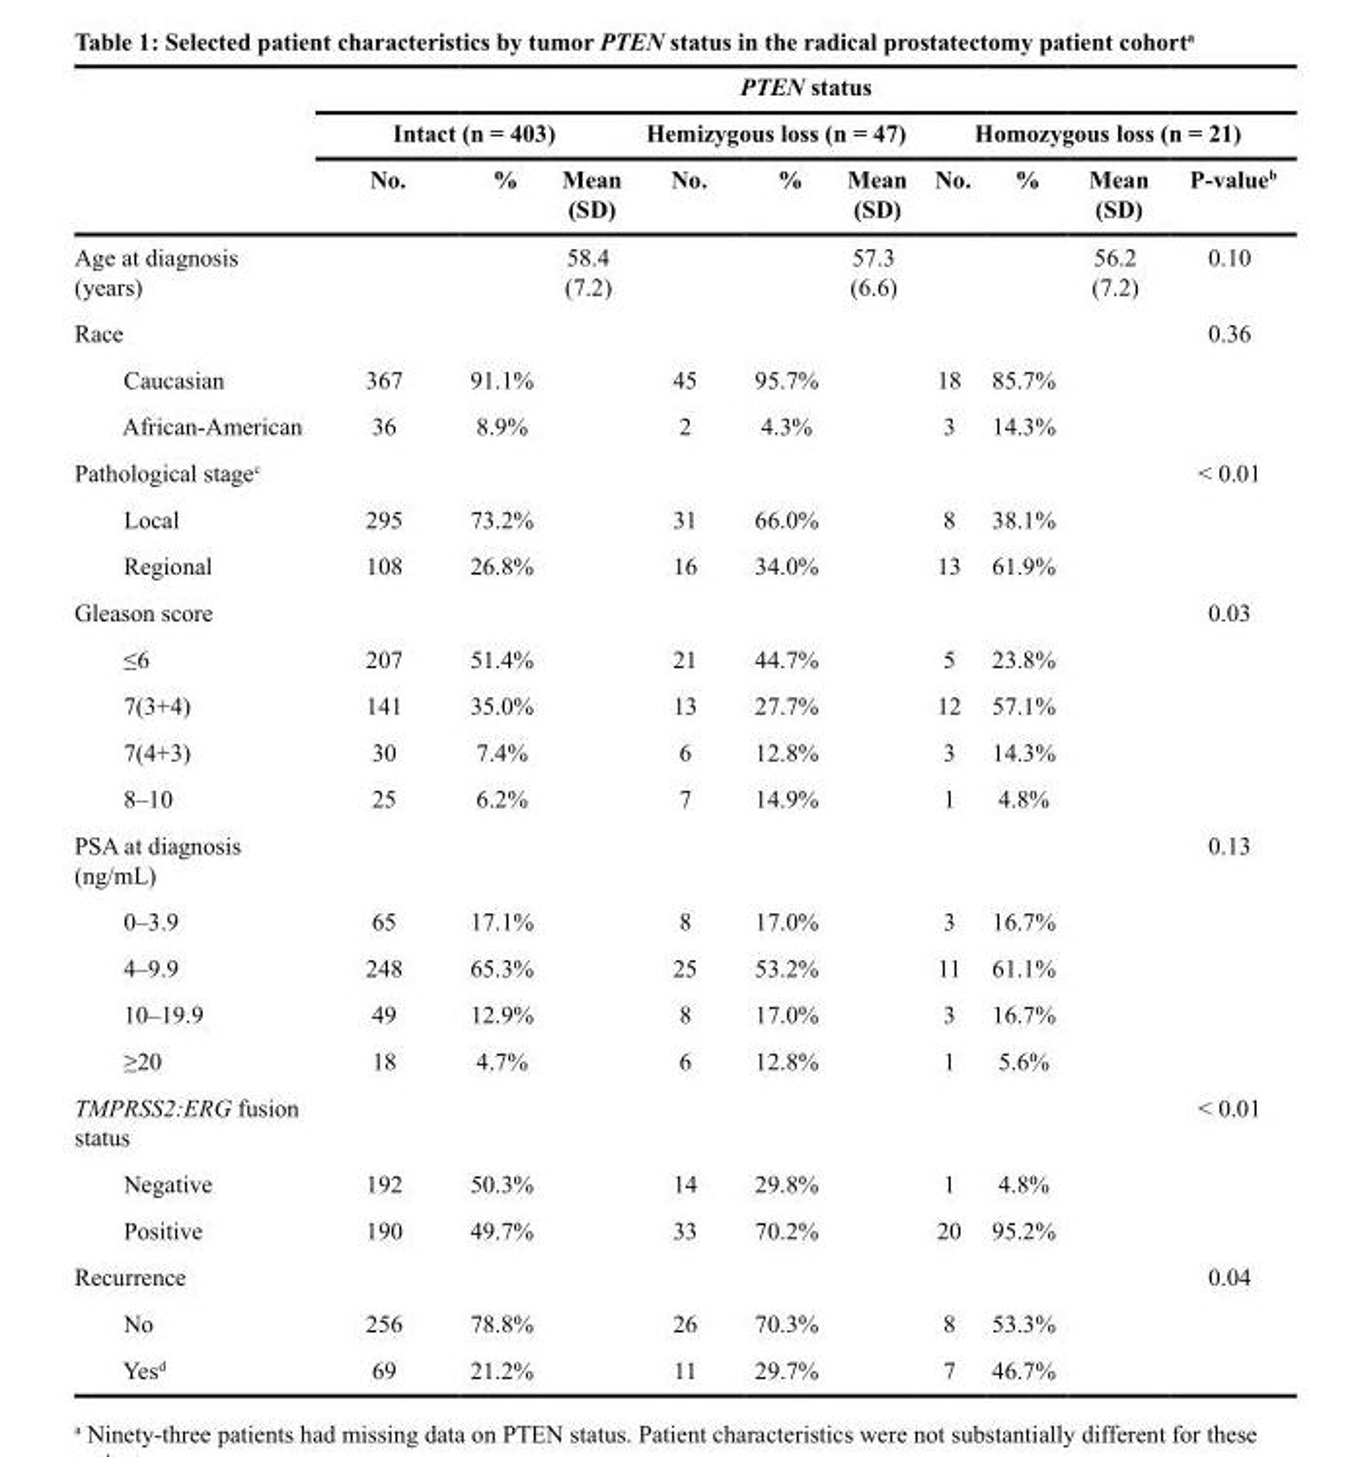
<table><thead><tr><td rowspan="3"></td><td colspan="10">PTEN status</td></tr><tr><td colspan="3">Intact (n = 403)</td><td colspan="3">Hemizygous loss (n = 47)</td><td colspan="4">Homozygous loss (n = 21)</td></tr><tr><td>No.</td><td>%</td><td>Mean (SD)</td><td>No.</td><td>%</td><td>Mean (SD)</td><td>No.</td><td>%</td><td>Mean (SD)</td><td>P-value<sup>b</sup></td></tr></thead><tbody><tr><td>Age at diagnosis (years)</td><td></td><td></td><td>58.4 (7.2)</td><td></td><td></td><td>57.3 (6.6)</td><td></td><td></td><td>56.2 (7.2)</td><td>0.10</td></tr><tr><td>Race</td><td></td><td></td><td></td><td></td><td></td><td></td><td></td><td></td><td></td><td>0.36</td></tr><tr><td>Caucasian</td><td>367</td><td>91.1%</td><td></td><td>45</td><td>95.7%</td><td></td><td>18</td><td>85.7%</td><td></td><td></td></tr><tr><td>African-American</td><td>36</td><td>8.9%</td><td></td><td>2</td><td>4.3%</td><td></td><td>3</td><td>14.3%</td><td></td><td></td></tr><tr><td>Pathological stage<sup>c</sup></td><td></td><td></td><td></td><td></td><td></td><td></td><td></td><td></td><td></td><td>&lt; 0.01</td></tr><tr><td>Local</td><td>295</td><td>73.2%</td><td></td><td>31</td><td>66.0%</td><td></td><td>8</td><td>38.1%</td><td></td><td></td></tr><tr><td>Regional</td><td>108</td><td>26.8%</td><td></td><td>16</td><td>34.0%</td><td></td><td>13</td><td>61.9%</td><td></td><td></td></tr><tr><td>Gleason score</td><td></td><td></td><td></td><td></td><td></td><td></td><td></td><td></td><td></td><td>0.03</td></tr><tr><td>≤6</td><td>207</td><td>51.4%</td><td></td><td>21</td><td>44.7%</td><td></td><td>5</td><td>23.8%</td><td></td><td></td></tr><tr><td>7(3+4)</td><td>141</td><td>35.0%</td><td></td><td>13</td><td>27.7%</td><td></td><td>12</td><td>57.1%</td><td></td><td></td></tr><tr><td>7(4+3)</td><td>30</td><td>7.4%</td><td></td><td>6</td><td>12.8%</td><td></td><td>3</td><td>14.3%</td><td></td><td></td></tr><tr><td>8–10</td><td>25</td><td>6.2%</td><td></td><td>7</td><td>14.9%</td><td></td><td>1</td><td>4.8%</td><td></td><td></td></tr><tr><td>PSA at diagnosis (ng/mL)</td><td></td><td></td><td></td><td></td><td></td><td></td><td></td><td></td><td></td><td>0.13</td></tr><tr><td>0–3.9</td><td>65</td><td>17.1%</td><td></td><td>8</td><td>17.0%</td><td></td><td>3</td><td>16.7%</td><td></td><td></td></tr><tr><td>4–9.9</td><td>248</td><td>65.3%</td><td></td><td>25</td><td>53.2%</td><td></td><td>11</td><td>61.1%</td><td></td><td></td></tr><tr><td>10–19.9</td><td>49</td><td>12.9%</td><td></td><td>8</td><td>17.0%</td><td></td><td>3</td><td>16.7%</td><td></td><td></td></tr><tr><td>≥20</td><td>18</td><td>4.7%</td><td></td><td>6</td><td>12.8%</td><td></td><td>1</td><td>5.6%</td><td></td><td></td></tr><tr><td>TMPRSS2:ERG fusion status</td><td></td><td></td><td></td><td></td><td></td><td></td><td></td><td></td><td></td><td>&lt; 0.01</td></tr><tr><td>Negative</td><td>192</td><td>50.3%</td><td></td><td>14</td><td>29.8%</td><td></td><td>1</td><td>4.8%</td><td></td><td></td></tr><tr><td>Positive</td><td>190</td><td>49.7%</td><td></td><td>33</td><td>70.2%</td><td></td><td>20</td><td>95.2%</td><td></td><td></td></tr><tr><td>Recurrence</td><td></td><td></td><td></td><td></td><td></td><td></td><td></td><td></td><td></td><td>0.04</td></tr><tr><td>No</td><td>256</td><td>78.8%</td><td></td><td>26</td><td>70.3%</td><td></td><td>8</td><td>53.3%</td><td></td><td></td></tr><tr><td>Yes<sup>d</sup></td><td>69</td><td>21.2%</td><td></td><td>11</td><td>29.7%</td><td></td><td>7</td><td>46.7%</td><td></td><td></td></tr></tbody></table>